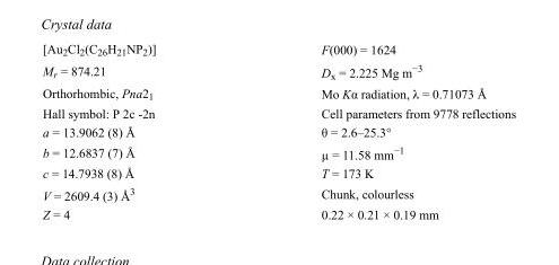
<table><tbody><tr><td>[Au<sub>2</sub>Cl<sub>2</sub>(C<sub>26</sub>H<sub>21</sub>NP<sub>2</sub>)]</td><td>F(000) = 1624</td></tr><tr><td>M<sub>r</sub> = 874.21</td><td>D<sub>x</sub> = 2.225 Mg m<sup>−3</sup></td></tr><tr><td>Orthorhombic, Pna2<sub>1</sub></td><td>Mo Kα radiation, λ = 0.71073 Å</td></tr><tr><td>Hall symbol: P 2c -2n</td><td>Cell parameters from 9778 reflections</td></tr><tr><td>a = 13.9062 (8) Å</td><td>θ = 2.6–25.3°</td></tr><tr><td>b = 12.6837 (7) Å</td><td>µ = 11.58 mm<sup>−1</sup></td></tr><tr><td>c = 14.7938 (8) Å</td><td>T = 173 K</td></tr><tr><td>V = 2609.4 (3) Å<sup>3</sup></td><td>Chunk, colourless</td></tr><tr><td>Z = 4</td><td>0.22 × 0.21 × 0.19 mm</td></tr></tbody></table>